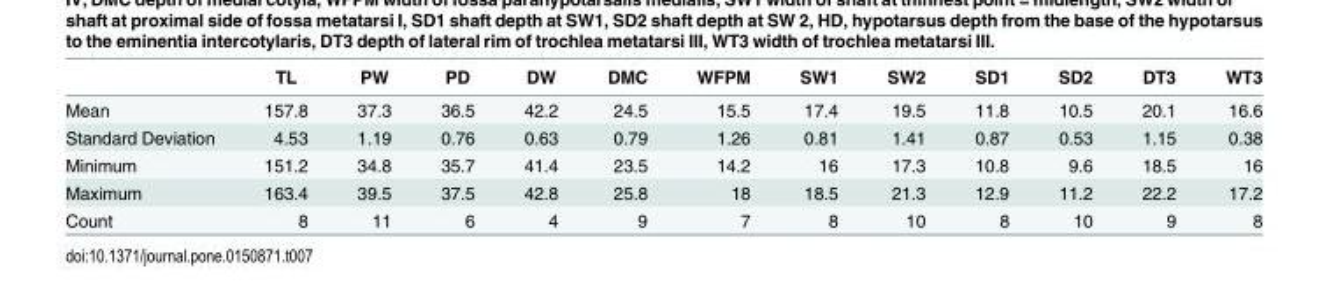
<table><thead><tr><td></td><td>TL</td><td>PW</td><td>PD</td><td>DW</td><td>DMC</td><td>WFPM</td><td>SW1</td><td>SW2</td><td>SD1</td><td>SD2</td><td>DT3</td><td>WT3</td></tr></thead><tbody><tr><td>Mean</td><td>157.8</td><td>37.3</td><td>36.5</td><td>42.2</td><td>24.5</td><td>15.5</td><td>17.4</td><td>19.5</td><td>11.8</td><td>10.5</td><td>20.1</td><td>16.6</td></tr><tr><td>Standard Deviation</td><td>4.53</td><td>1.19</td><td>0.76</td><td>0.63</td><td>0.79</td><td>1.26</td><td>0.81</td><td>1.41</td><td>0.87</td><td>0.53</td><td>1.15</td><td>0.38</td></tr><tr><td>Minimum</td><td>151.2</td><td>34.8</td><td>35.7</td><td>41.4</td><td>23.5</td><td>14.2</td><td>16</td><td>17.3</td><td>10.8</td><td>9.6</td><td>18.5</td><td>16</td></tr><tr><td>Maximum</td><td>163.4</td><td>39.5</td><td>37.5</td><td>42.8</td><td>25.8</td><td>18</td><td>18.5</td><td>21.3</td><td>12.9</td><td>11.2</td><td>22.2</td><td>17.2</td></tr><tr><td>Count</td><td>8</td><td>11</td><td>6</td><td>4</td><td>9</td><td>7</td><td>8</td><td>10</td><td>8</td><td>10</td><td>9</td><td>8</td></tr></tbody></table>